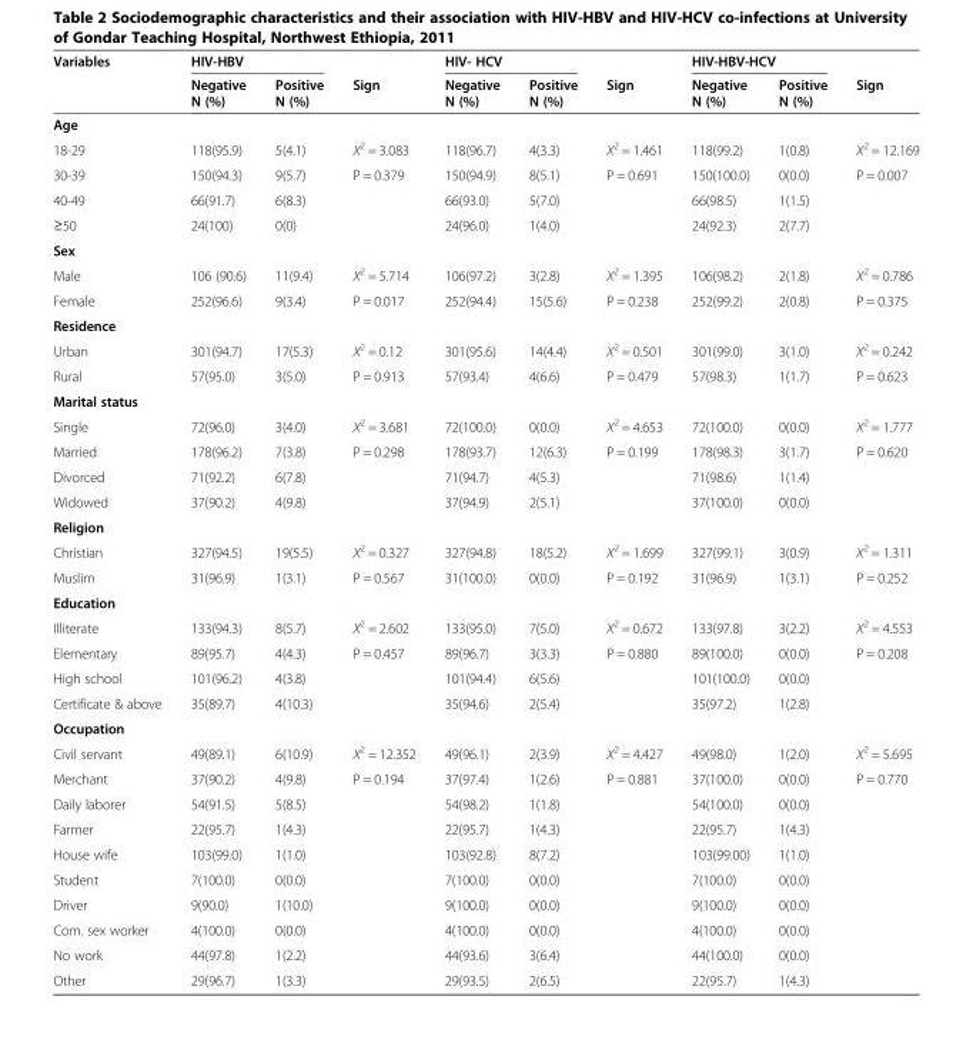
<table><thead><tr><td rowspan="2">Variables</td><td colspan="2">HIV-HBV</td><td rowspan="2">Sign</td><td colspan="2">HIV- HCV</td><td rowspan="2">Sign</td><td colspan="2">HIV-HBV-HCV</td><td rowspan="2">Sign</td></tr><tr><td>Negative N (%)</td><td>Positive N (%)</td><td>Negative N (%)</td><td>Positive N (%)</td><td>Negative N (%)</td><td>Positive N (%)</td></tr></thead><tbody><tr><td colspan="10">Age</td></tr><tr><td>18-29</td><td>118(95.9)</td><td>5(4.1)</td><td>X<sup>2</sup> = 3.083</td><td>118(96.7)</td><td>4(3.3)</td><td>X<sup>2</sup> = 1.461</td><td>118(99.2)</td><td>1(0.8)</td><td>X<sup>2</sup> = 12.169</td></tr><tr><td>30-39</td><td>150(94.3)</td><td>9(5.7)</td><td rowspan="3">P = 0.379</td><td>150(94.9)</td><td>8(5.1)</td><td rowspan="3">P = 0.691</td><td>150(100.0)</td><td>0(0.0)</td><td rowspan="3">P = 0.007</td></tr><tr><td>40-49</td><td>66(91.7)</td><td>6(8.3)</td><td>66(93.0)</td><td>5(7.0)</td><td>66(98.5)</td><td>1(1.5)</td></tr><tr><td>≥50</td><td>24(100)</td><td>0(0)</td><td>24(96.0)</td><td>1(4.0)</td><td>24(92.3)</td><td>2(7.7)</td></tr><tr><td colspan="10">Sex</td></tr><tr><td>Male</td><td>106 (90.6)</td><td>11(9.4)</td><td>X<sup>2</sup> = 5.714</td><td>106(97.2)</td><td>3(2.8)</td><td>X<sup>2</sup> = 1.395</td><td>106(98.2)</td><td>2(1.8)</td><td>X<sup>2</sup> = 0.786</td></tr><tr><td>Female</td><td>252(96.6)</td><td>9(3.4)</td><td>P = 0.017</td><td>252(94.4)</td><td>15(5.6)</td><td>P = 0.238</td><td>252(99.2)</td><td>2(0.8)</td><td>P = 0.375</td></tr><tr><td colspan="10">Residence</td></tr><tr><td>Urban</td><td>301(94.7)</td><td>17(5.3)</td><td>X<sup>2</sup> = 0.12</td><td>301(95.6)</td><td>14(4.4)</td><td>X<sup>2</sup> = 0.501</td><td>301(99.0)</td><td>3(1.0)</td><td>X<sup>2</sup> = 0.242</td></tr><tr><td>Rural</td><td>57(95.0)</td><td>3(5.0)</td><td>P = 0.913</td><td>57(93.4)</td><td>4(6.6)</td><td>P = 0.479</td><td>57(98.3)</td><td>1(1.7)</td><td>P = 0.623</td></tr><tr><td colspan="10">Marital status</td></tr><tr><td>Single</td><td>72(96.0)</td><td>3(4.0)</td><td>X<sup>2</sup> = 3.681</td><td>72(100.0)</td><td>0(0.0)</td><td>X<sup>2</sup> = 4.653</td><td>72(100.0)</td><td>0(0.0)</td><td>X<sup>2</sup> = 1.777</td></tr><tr><td>Married</td><td>178(96.2)</td><td>7(3.8)</td><td rowspan="3">P = 0.298</td><td>178(93.7)</td><td>12(6.3)</td><td rowspan="3">P = 0.199</td><td>178(98.3)</td><td>3(1.7)</td><td rowspan="3">P = 0.620</td></tr><tr><td>Divorced</td><td>71(92.2)</td><td>6(7.8)</td><td>71(94.7)</td><td>4(5.3)</td><td>71(98.6)</td><td>1(1.4)</td></tr><tr><td>Widowed</td><td>37(90.2)</td><td>4(9.8)</td><td>37(94.9)</td><td>2(5.1)</td><td>37(100.0)</td><td>0(0.0)</td></tr><tr><td colspan="10">Religion</td></tr><tr><td>Christian</td><td>327(94.5)</td><td>19(5.5)</td><td>X<sup>2</sup> = 0.327</td><td>327(94.8)</td><td>18(5.2)</td><td>X<sup>2</sup> = 1.699</td><td>327(99.1)</td><td>3(0.9)</td><td>X<sup>2</sup> = 1.311</td></tr><tr><td>Muslim</td><td>31(96.9)</td><td>1(3.1)</td><td>P = 0.567</td><td>31(100.0)</td><td>0(0.0)</td><td>P = 0.192</td><td>31(96.9)</td><td>1(3.1)</td><td>P = 0.252</td></tr><tr><td colspan="10">Education</td></tr><tr><td>Illiterate</td><td>133(94.3)</td><td>8(5.7)</td><td>X<sup>2</sup> = 2.602</td><td>133(95.0)</td><td>7(5.0)</td><td>X<sup>2</sup> = 0.672</td><td>133(97.8)</td><td>3(2.2)</td><td>X<sup>2</sup> = 4.553</td></tr><tr><td>Elementary</td><td>89(95.7)</td><td>4(4.3)</td><td rowspan="3">P = 0.457</td><td>89(96.7)</td><td>3(3.3)</td><td rowspan="3">P = 0.880</td><td>89(100.0)</td><td>0(0.0)</td><td rowspan="3">P = 0.208</td></tr><tr><td>High school</td><td>101(96.2)</td><td>4(3.8)</td><td>101(94.4)</td><td>6(5.6)</td><td>101(100.0)</td><td>0(0.0)</td></tr><tr><td>Certificate &amp; above</td><td>35(89.7)</td><td>4(10.3)</td><td>35(94.6)</td><td>2(5.4)</td><td>35(97.2)</td><td>1(2.8)</td></tr><tr><td colspan="10">Occupation</td></tr><tr><td>Civil servant</td><td>49(89.1)</td><td>6(10.9)</td><td>X<sup>2</sup> = 12.352</td><td>49(96.1)</td><td>2(3.9)</td><td>X<sup>2</sup> = 4.427</td><td>49(98.0)</td><td>1(2.0)</td><td>X<sup>2</sup> = 5.695</td></tr><tr><td>Merchant</td><td>37(90.2)</td><td>4(9.8)</td><td rowspan="8">P = 0.194</td><td>37(97.4)</td><td>1(2.6)</td><td rowspan="8">P = 0.881</td><td>37(100.0)</td><td>0(0.0)</td><td rowspan="8">P = 0.770</td></tr><tr><td>Daily laborer</td><td>54(91.5)</td><td>5(8.5)</td><td>54(98.2)</td><td>1(1.8)</td><td>54(100.0)</td><td>0(0.0)</td></tr><tr><td>Farmer</td><td>22(95.7)</td><td>1(4.3)</td><td>22(95.7)</td><td>1(4.3)</td><td>22(95.7)</td><td>1(4.3)</td></tr><tr><td>House wife</td><td>103(99.0)</td><td>1(1.0)</td><td>103(92.8)</td><td>8(7.2)</td><td>103(99.00)</td><td>1(1.0)</td></tr><tr><td>Student</td><td>7(100.0)</td><td>0(0.0)</td><td>7(100.0)</td><td>0(0.0)</td><td>7(100.0)</td><td>0(0.0)</td></tr><tr><td>Driver</td><td>9(90.0)</td><td>1(10.0)</td><td>9(100.0)</td><td>0(0.0)</td><td>9(100.0)</td><td>0(0.0)</td></tr><tr><td>Com. sex worker</td><td>4(100.0)</td><td>0(0.0)</td><td>4(100.0)</td><td>0(0.0)</td><td>4(100.0)</td><td>0(0.0)</td></tr><tr><td>No work</td><td>44(97.8)</td><td>1(2.2)</td><td>44(93.6)</td><td>3(6.4)</td><td>44(100.0)</td><td>0(0.0)</td></tr><tr><td>Other</td><td>29(96.7)</td><td>1(3.3)</td><td></td><td>29(93.5)</td><td>2(6.5)</td><td></td><td>22(95.7)</td><td>1(4.3)</td><td></td></tr></tbody></table>